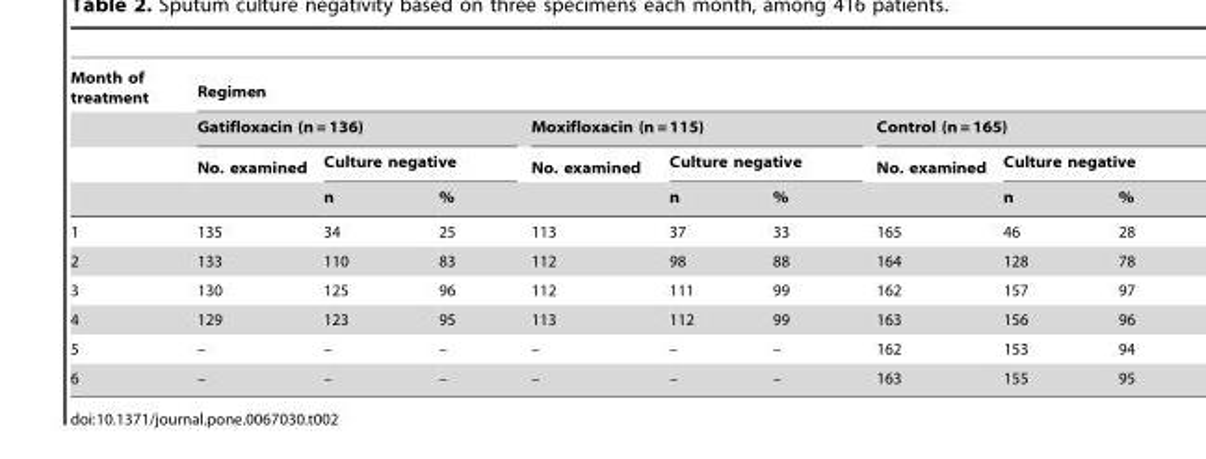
<table><thead><tr><td rowspan="4">Month of treatment</td><td colspan="9">Regimen</td></tr><tr><td colspan="3">Gatifloxacin (n = 136)</td><td colspan="3">Moxifloxacin (n = 115)</td><td colspan="3">Control (n = 165)</td></tr><tr><td rowspan="2">No. examined</td><td colspan="2">Culture negative</td><td rowspan="2">No. examined</td><td colspan="2">Culture negative</td><td rowspan="2">No. examined</td><td colspan="2">Culture negative</td></tr><tr><td>n</td><td>%</td><td>n</td><td>%</td><td>n</td><td>%</td></tr></thead><tbody><tr><td>1</td><td>135</td><td>34</td><td>25</td><td>113</td><td>37</td><td>33</td><td>165</td><td>46</td><td>28</td></tr><tr><td>2</td><td>133</td><td>110</td><td>83</td><td>112</td><td>98</td><td>88</td><td>164</td><td>128</td><td>78</td></tr><tr><td>3</td><td>130</td><td>125</td><td>96</td><td>112</td><td>111</td><td>99</td><td>162</td><td>157</td><td>97</td></tr><tr><td>4</td><td>129</td><td>123</td><td>95</td><td>113</td><td>112</td><td>99</td><td>163</td><td>156</td><td>96</td></tr><tr><td>5</td><td>–</td><td>–</td><td>–</td><td>–</td><td>–</td><td>–</td><td>162</td><td>153</td><td>94</td></tr><tr><td>6</td><td>–</td><td>–</td><td>–</td><td>–</td><td>–</td><td>–</td><td>163</td><td>155</td><td>95</td></tr></tbody></table>